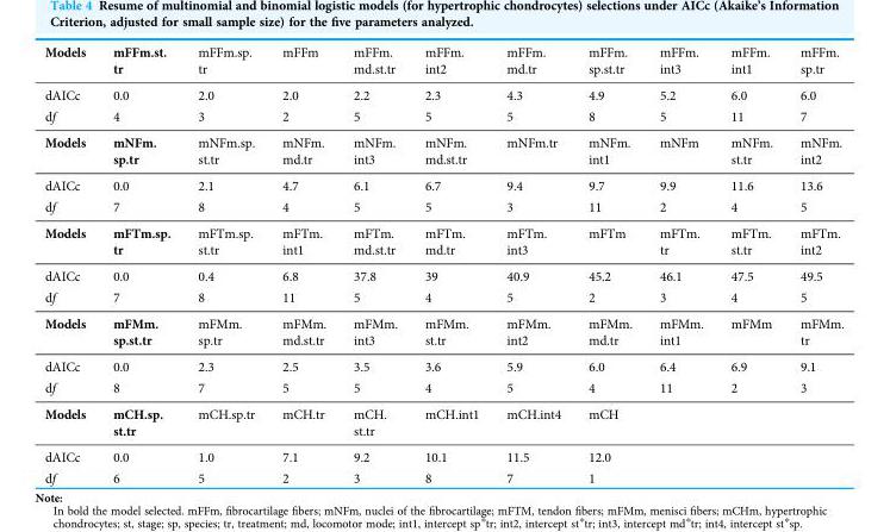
<table><tbody><tr><td>Models</td><td>mFFm.st. tr</td><td>mFFm.sp. tr</td><td>mFFm</td><td>mFFm. md.st.tr</td><td>mFFm. int2</td><td>mFFm. md.tr</td><td>mFFm. sp.st.tr</td><td>mFFm. int3</td><td>mFFm. int1</td><td>mFFm. sp.tr</td></tr><tr><td>dAICc</td><td>0.0</td><td>2.0</td><td>2.0</td><td>2.2</td><td>2.3</td><td>4.3</td><td>4.9</td><td>5.2</td><td>6.0</td><td>6.0</td></tr><tr><td>df</td><td>4</td><td>3</td><td>2</td><td>5</td><td>5</td><td>5</td><td>8</td><td>5</td><td>11</td><td>7</td></tr><tr><td>Models</td><td>mNFm. sp.tr</td><td>mNFm.sp. st.tr</td><td>mNFm. md.tr</td><td>mNFm. int3</td><td>mNFm. md.st.tr</td><td>mNFm.tr</td><td>mNFm. int1</td><td>mNFm</td><td>mNFm. st.tr</td><td>mNFm. int2</td></tr><tr><td>dAICc</td><td>0.0</td><td>2.1</td><td>4.7</td><td>6.1</td><td>6.7</td><td>9.4</td><td>9.7</td><td>9.9</td><td>11.6</td><td>13.6</td></tr><tr><td>df</td><td>7</td><td>8</td><td>4</td><td>5</td><td>5</td><td>3</td><td>11</td><td>2</td><td>4</td><td>5</td></tr><tr><td>Models</td><td>mFTm.sp. tr</td><td>mFTm.sp. st.tr</td><td>mFTm. int1</td><td>mFTm. md.st.tr</td><td>mFTm. md.tr</td><td>mFTm. int3</td><td>mFTm</td><td>mFTm. tr</td><td>mFTm. st.tr</td><td>mFTm. int2</td></tr><tr><td>dAICc</td><td>0.0</td><td>0.4</td><td>6.8</td><td>37.8</td><td>39</td><td>40.9</td><td>45.2</td><td>46.1</td><td>47.5</td><td>49.5</td></tr><tr><td>df</td><td>7</td><td>8</td><td>11</td><td>5</td><td>4</td><td>5</td><td>2</td><td>3</td><td>4</td><td>5</td></tr><tr><td>Models</td><td>mFMm. sp.st.tr</td><td>mFMm. sp.tr</td><td>mFMm. md.st.tr</td><td>mFMm. int3</td><td>mFMm. st.tr</td><td>mFMm. int2</td><td>mFMm. md.tr</td><td>mFMm. int1</td><td>mFMm</td><td>mFMm. tr</td></tr><tr><td>dAICc</td><td>0.0</td><td>2.3</td><td>2.5</td><td>3.5</td><td>3.6</td><td>5.9</td><td>6.0</td><td>6.4</td><td>6.9</td><td>9.1</td></tr><tr><td>df</td><td>8</td><td>7</td><td>5</td><td>5</td><td>4</td><td>5</td><td>4</td><td>11</td><td>2</td><td>3</td></tr><tr><td>Models</td><td>mCH.sp. st.tr</td><td>mCH.sp.tr</td><td>mCH.tr</td><td>mCH. st.tr</td><td>mCH.int1</td><td>mCH.int4</td><td>mCH</td><td></td><td></td><td></td></tr><tr><td>dAICc</td><td>0.0</td><td>1.0</td><td>7.1</td><td>9.2</td><td>10.1</td><td>11.5</td><td>12.0</td><td></td><td></td><td></td></tr><tr><td>df</td><td>6</td><td>5</td><td>2</td><td>3</td><td>8</td><td>7</td><td>1</td><td></td><td></td><td></td></tr></tbody></table>